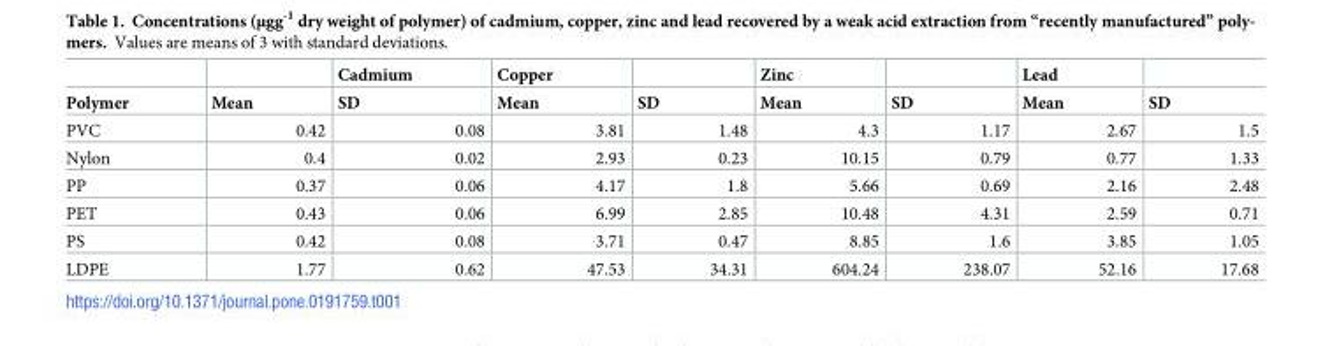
<table><thead><tr><td rowspan="2">Polymer</td><td rowspan="2">Mean</td><td rowspan="2">Cadmium SD</td><td rowspan="2">Copper Mean</td><td rowspan="2">SD</td><td rowspan="2">Zinc Mean</td><td rowspan="2">SD</td><td rowspan="2">Lead Mean</td><td rowspan="2">SD</td></tr><tr></tr></thead><tbody><tr><td>PVC</td><td>0.42</td><td>0.08</td><td>3.81</td><td>1.48</td><td>4.3</td><td>1.17</td><td>2.67</td><td>1.5</td></tr><tr><td>Nylon</td><td>0.4</td><td>0.02</td><td>2.93</td><td>0.23</td><td>10.15</td><td>0.79</td><td>0.77</td><td>1.33</td></tr><tr><td>PP</td><td>0.37</td><td>0.06</td><td>4.17</td><td>1.8</td><td>5.66</td><td>0.69</td><td>2.16</td><td>2.48</td></tr><tr><td>PET</td><td>0.43</td><td>0.06</td><td>6.99</td><td>2.85</td><td>10.48</td><td>4.31</td><td>2.59</td><td>0.71</td></tr><tr><td>PS</td><td>0.42</td><td>0.08</td><td>3.71</td><td>0.47</td><td>8.85</td><td>1.6</td><td>3.85</td><td>1.05</td></tr><tr><td>LDPE</td><td>1.77</td><td>0.62</td><td>47.53</td><td>34.31</td><td>604.24</td><td>238.07</td><td>52.16</td><td>17.68</td></tr></tbody></table>